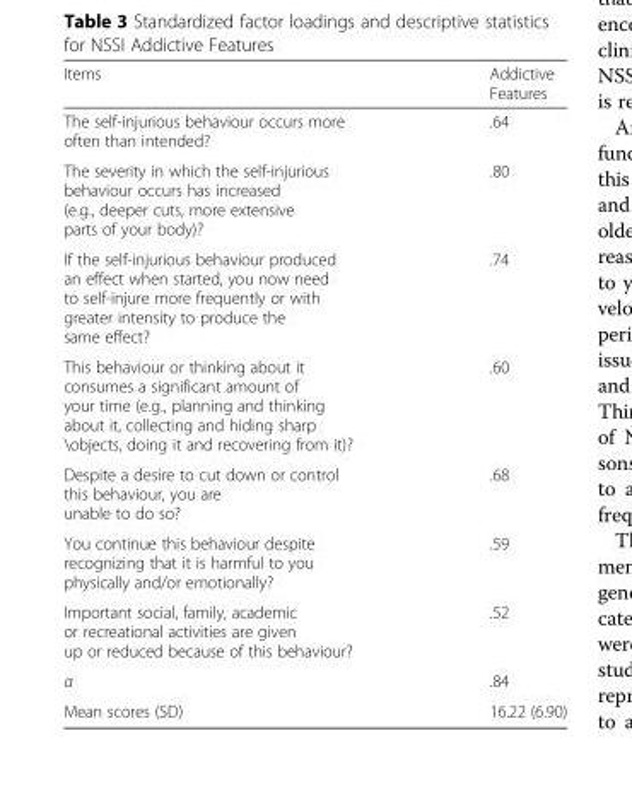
<table><thead><tr><td>Items</td><td>Addictive Features</td></tr></thead><tbody><tr><td>The self-injurious behaviour occurs more often than intended?</td><td>.64</td></tr><tr><td>The severity in which the self-injurious behaviour occurs has increased (e.g., deeper cuts, more extensive parts of your body)?</td><td>.80</td></tr><tr><td>If the self-injurious behaviour produced an effect when started, you now need to self-injure more frequently or with greater intensity to produce the same effect?</td><td>.74</td></tr><tr><td>This behaviour or thinking about it consumes a significant amount of your time (e.g., planning and thinking about it, collecting and hiding sharp \objects, doing it and recovering from it)?</td><td>.60</td></tr><tr><td>Despite a desire to cut down or control this behaviour, you are unable to do so?</td><td>.68</td></tr><tr><td>You continue this behaviour despite recognizing that it is harmful to you physically and/or emotionally?</td><td>.59</td></tr><tr><td>Important social, family, academic or recreational activities are given up or reduced because of this behaviour?</td><td>.52</td></tr><tr><td>α</td><td>.84</td></tr><tr><td>Mean scores (SD)</td><td>16.22 (6.90)</td></tr></tbody></table>